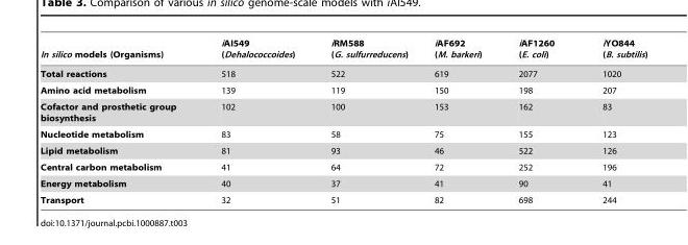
<table><thead><tr><td>In silico models (Organisms)</td><td>iAI549 (Dehalococcoides)</td><td>iRM588 (G. sulfurreducens)</td><td>iAF692 (M. barkeri)</td><td>iAF1260 (E. coli)</td><td>iYO844 (B. subtilis)</td></tr></thead><tbody><tr><td>Total reactions</td><td>518</td><td>522</td><td>619</td><td>2077</td><td>1020</td></tr><tr><td>Amino acid metabolism</td><td>139</td><td>119</td><td>150</td><td>198</td><td>207</td></tr><tr><td>Cofactor and prosthetic group biosynthesis</td><td>102</td><td>100</td><td>153</td><td>162</td><td>83</td></tr><tr><td>Nucleotide metabolism</td><td>83</td><td>58</td><td>75</td><td>155</td><td>123</td></tr><tr><td>Lipid metabolism</td><td>81</td><td>93</td><td>46</td><td>522</td><td>126</td></tr><tr><td>Central carbon metabolism</td><td>41</td><td>64</td><td>72</td><td>252</td><td>196</td></tr><tr><td>Energy metabolism</td><td>40</td><td>37</td><td>41</td><td>90</td><td>41</td></tr><tr><td>Transport</td><td>32</td><td>51</td><td>82</td><td>698</td><td>244</td></tr></tbody></table>